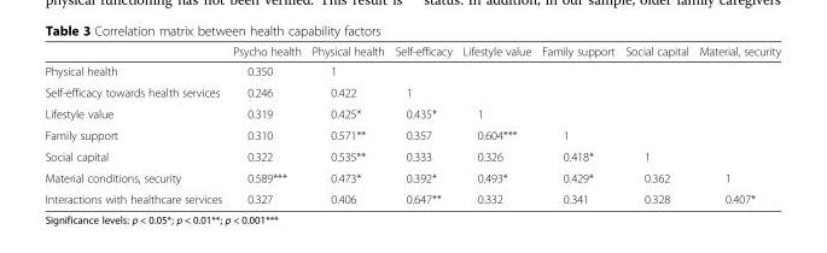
<table><thead><tr><td></td><td>Psycho health</td><td>Physical health</td><td>Self-efficacy</td><td>Lifestyle value</td><td>Family support</td><td>Social capital</td><td>Material, security</td></tr></thead><tbody><tr><td>Physical health</td><td>0.350</td><td>1</td><td></td><td></td><td></td><td></td><td></td></tr><tr><td>Self-efficacy towards health services</td><td>0.246</td><td>0.422</td><td>1</td><td></td><td></td><td></td><td></td></tr><tr><td>Lifestyle value</td><td>0.319</td><td>0.425*</td><td>0.435*</td><td>1</td><td></td><td></td><td></td></tr><tr><td>Family support</td><td>0.310</td><td>0.571**</td><td>0.357</td><td>0.604***</td><td>1</td><td></td><td></td></tr><tr><td>Social capital</td><td>0.322</td><td>0.535**</td><td>0.333</td><td>0.326</td><td>0.418*</td><td>1</td><td></td></tr><tr><td>Material conditions, security</td><td>0.589***</td><td>0.473*</td><td>0.392*</td><td>0.493*</td><td>0.429*</td><td>0.362</td><td>1</td></tr><tr><td>Interactions with healthcare services</td><td>0.327</td><td>0.406</td><td>0.647**</td><td>0.332</td><td>0.341</td><td>0.328</td><td>0.407*</td></tr></tbody></table>